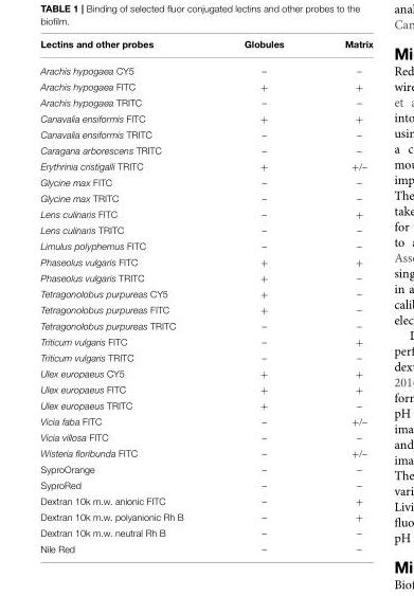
<table><thead><tr><td>Lectins and other probes</td><td>Globules</td><td>Matrix</td></tr></thead><tbody><tr><td>Arachis hypogaea CY5</td><td>–</td><td>–</td></tr><tr><td>Arachis hypogaea FITC</td><td>+</td><td>+</td></tr><tr><td>Arachis hypogaea TRITC</td><td>–</td><td>–</td></tr><tr><td>Canavalia ensiformis FITC</td><td>+</td><td>+</td></tr><tr><td>Canavalia ensiformis TRITC</td><td>–</td><td>–</td></tr><tr><td>Caragana arborescens TRITC</td><td>–</td><td>–</td></tr><tr><td>Erythrinia cristigalli TRITC</td><td>+</td><td>+/–</td></tr><tr><td>Glycine max FITC</td><td>–</td><td>–</td></tr><tr><td>Glycine max TRITC</td><td>–</td><td>–</td></tr><tr><td>Lens culinaris FITC</td><td>–</td><td>+</td></tr><tr><td>Lens culinaris TRITC</td><td>–</td><td>–</td></tr><tr><td>Limulus polyphemus FITC</td><td>–</td><td>–</td></tr><tr><td>Phaseolus vulgaris FITC</td><td>+</td><td>+</td></tr><tr><td>Phaseolus vulgaris TRITC</td><td>+</td><td>–</td></tr><tr><td>Tetragonolobus purpureas CY5</td><td>+</td><td>–</td></tr><tr><td>Tetragonolobus purpureas FITC</td><td>+</td><td>–</td></tr><tr><td>Tetragonolobus purpureas TRITC</td><td>–</td><td>–</td></tr><tr><td>Triticum vulgaris FITC</td><td>–</td><td>+</td></tr><tr><td>Triticum vulgaris TRITC</td><td>–</td><td>–</td></tr><tr><td>Ulex europaeus CY5</td><td>+</td><td>+</td></tr><tr><td>Ulex europaeus FITC</td><td>+</td><td>+</td></tr><tr><td>Ulex europaeus TRITC</td><td>+</td><td>–</td></tr><tr><td>Vicia faba FITC</td><td>–</td><td>+/–</td></tr><tr><td>Vicia villosa FITC</td><td>–</td><td>–</td></tr><tr><td>Wisteria floribunda FITC</td><td>–</td><td>+/–</td></tr><tr><td>SyproOrange</td><td>–</td><td>–</td></tr><tr><td>SyproRed</td><td>–</td><td>–</td></tr><tr><td>Dextran 10k m.w. anionic FITC</td><td>–</td><td>+</td></tr><tr><td>Dextran 10k m.w. polyanionic Rh B</td><td>–</td><td>+</td></tr><tr><td>Dextran 10k m.w. neutral Rh B</td><td>–</td><td>–</td></tr><tr><td>Nile Red</td><td>–</td><td>–</td></tr></tbody></table>